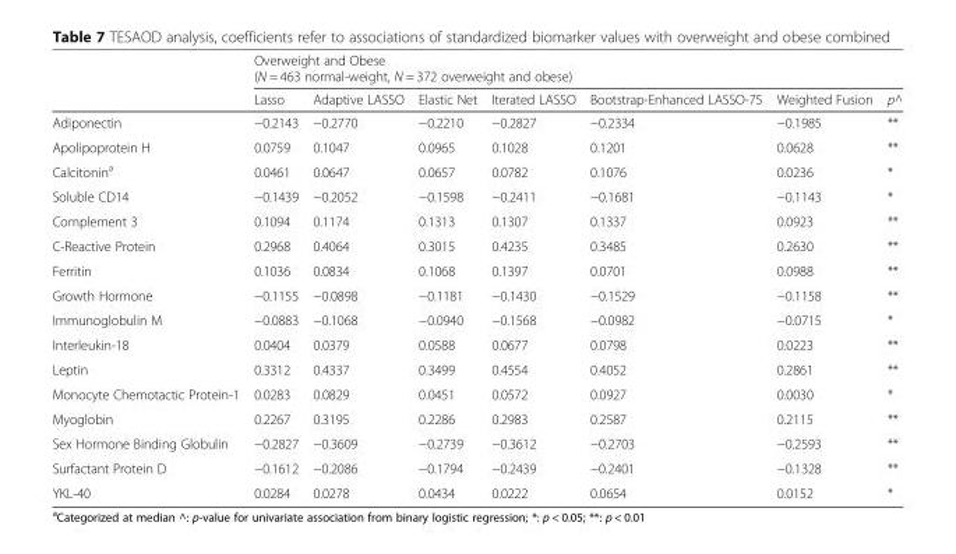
<table><thead><tr><td rowspan="3"></td><td rowspan="2" colspan="7">Overweight and Obese (N = 463 normal-weight, N = 372 overweight and obese)</td></tr><tr></tr><tr><td>Lasso</td><td>Adaptive LASSO</td><td>Elastic Net</td><td>Iterated LASSO</td><td>Bootstrap-Enhanced LASSO-75</td><td>Weighted Fusion</td><td>p^</td></tr></thead><tbody><tr><td>Adiponectin</td><td>−0.2143</td><td>−0.2770</td><td>−0.2210</td><td>−0.2827</td><td>−0.2334</td><td>−0.1985</td><td>**</td></tr><tr><td>Apolipoprotein H</td><td>0.0759</td><td>0.1047</td><td>0.0965</td><td>0.1028</td><td>0.1201</td><td>0.0628</td><td>**</td></tr><tr><td>Calcitonin<sup>a</sup></td><td>0.0461</td><td>0.0647</td><td>0.0657</td><td>0.0782</td><td>0.1076</td><td>0.0236</td><td>*</td></tr><tr><td>Soluble CD14</td><td>−0.1439</td><td>−0.2052</td><td>−0.1598</td><td>−0.2411</td><td>−0.1681</td><td>−0.1143</td><td>*</td></tr><tr><td>Complement 3</td><td>0.1094</td><td>0.1174</td><td>0.1313</td><td>0.1307</td><td>0.1337</td><td>0.0923</td><td>**</td></tr><tr><td>C-Reactive Protein</td><td>0.2968</td><td>0.4064</td><td>0.3015</td><td>0.4235</td><td>0.3485</td><td>0.2630</td><td>**</td></tr><tr><td>Ferritin</td><td>0.1036</td><td>0.0834</td><td>0.1068</td><td>0.1397</td><td>0.0701</td><td>0.0988</td><td>**</td></tr><tr><td>Growth Hormone</td><td>−0.1155</td><td>−0.0898</td><td>−0.1181</td><td>−0.1430</td><td>−0.1529</td><td>−0.1158</td><td>**</td></tr><tr><td>Immunoglobulin M</td><td>−0.0883</td><td>−0.1068</td><td>−0.0940</td><td>−0.1568</td><td>−0.0982</td><td>−0.0715</td><td>*</td></tr><tr><td>Interleukin-18</td><td>0.0404</td><td>0.0379</td><td>0.0588</td><td>0.0677</td><td>0.0798</td><td>0.0223</td><td>**</td></tr><tr><td>Leptin</td><td>0.3312</td><td>0.4337</td><td>0.3499</td><td>0.4554</td><td>0.4052</td><td>0.2861</td><td>**</td></tr><tr><td>Monocyte Chemotactic Protein-1</td><td>0.0283</td><td>0.0829</td><td>0.0451</td><td>0.0572</td><td>0.0927</td><td>0.0030</td><td>*</td></tr><tr><td>Myoglobin</td><td>0.2267</td><td>0.3195</td><td>0.2286</td><td>0.2983</td><td>0.2587</td><td>0.2115</td><td>**</td></tr><tr><td>Sex Hormone Binding Globulin</td><td>−0.2827</td><td>−0.3609</td><td>−0.2739</td><td>−0.3612</td><td>−0.2703</td><td>−0.2593</td><td>**</td></tr><tr><td>Surfactant Protein D</td><td>−0.1612</td><td>−0.2086</td><td>−0.1794</td><td>−0.2439</td><td>−0.2401</td><td>−0.1328</td><td>**</td></tr><tr><td>YKL-40</td><td>0.0284</td><td>0.0278</td><td>0.0434</td><td>0.0222</td><td>0.0654</td><td>0.0152</td><td>*</td></tr></tbody></table>